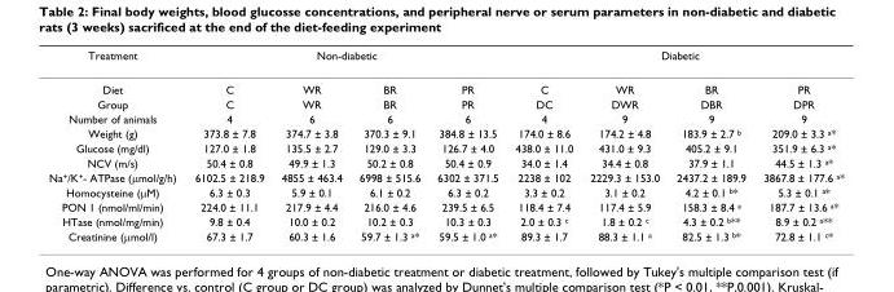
<table><thead><tr><td rowspan="2">Treatment Diet</td><td colspan="4">Non-diabetic</td><td colspan="4">Diabetic</td></tr><tr><td>C</td><td>WR</td><td>BR</td><td>PR</td><td>C</td><td>WR</td><td>BR</td><td>PR</td></tr></thead><tbody><tr><td>Group</td><td>C</td><td>WR</td><td>BR</td><td>PR</td><td>DC</td><td>DWR</td><td>DBR</td><td>DPR</td></tr><tr><td>Number of animals</td><td>4</td><td>6</td><td>6</td><td>6</td><td>4</td><td>9</td><td>9</td><td>9</td></tr><tr><td>Weight (g)</td><td>373.8 ± 7.8</td><td>374.7 ± 3.8</td><td>370.3 ± 9.1</td><td>384.8 ± 13.5</td><td>174.0 ± 8.6</td><td>174.2 ± 4.8</td><td>183.9 ± 2.7 <sup>b</sup></td><td>209.0 ± 3.3 <sup>a</sup>*</td></tr><tr><td>Glucose (mg/dl)</td><td>127.0 ± 1.8</td><td>135.5 ± 2.7</td><td>129.0 ± 3.3</td><td>126.7 ± 4.0</td><td>438.0 ± 11.0</td><td>431.0 ± 9.3</td><td>405.2 ± 9.1</td><td>351.9 ± 6.3 <sup>a</sup>*</td></tr><tr><td>NCV (m/s)</td><td>50.4 ± 0.8</td><td>49.9 ± 1.3</td><td>50.2 ± 0.8</td><td>50.4 ± 0.9</td><td>34.0 ± 1.4</td><td>34.4 ± 0.8</td><td>37.9 ± 1.1</td><td>44.5 ± 1.3 <sup>a</sup>*</td></tr><tr><td>Na<sup>+</sup>/K<sup>+</sup>- ATPase (µmol/g/h)</td><td>6102.5 ± 218.9</td><td>4855 ± 463.4</td><td>6998 ± 515.6</td><td>6302 ± 371.5</td><td>2238 ± 102</td><td>2229.3 ± 153.0</td><td>2437.2 ± 189.9</td><td>3867.8 ± 177.6 <sup>a</sup>*</td></tr><tr><td>Homocysteine (µM)</td><td>6.3 ± 0.3</td><td>5.9 ± 0.1</td><td>6.1 ± 0.2</td><td>6.3 ± 0.2</td><td>3.3 ± 0.2</td><td>3.1 ± 0.2</td><td>4.2 ± 0.1 <sup>b</sup>*</td><td>5.3 ± 0.1 <sup>a</sup>*</td></tr><tr><td>PON 1 (nmol/ml/min)</td><td>224.0 ± 11.1</td><td>217.9 ± 4.4</td><td>216.0 ± 4.6</td><td>239.5 ± 6.5</td><td>118.4 ± 7.4</td><td>117.4 ± 5.9</td><td>158.3 ± 8.4 <sup>a</sup></td><td>187.7 ± 13.6 <sup>a</sup>*</td></tr><tr><td>HTase (nmol/mg/min)</td><td>9.8 ± 0.4</td><td>10.0 ± 0.2</td><td>10.2 ± 0.3</td><td>10.3 ± 0.3</td><td>2.0 ± 0.3 <sup>c</sup></td><td>1.8 ± 0.2 <sup>c</sup></td><td>4.3 ± 0.2 <sup>b</sup>**</td><td>8.9 ± 0.2 <sup>a</sup>**</td></tr><tr><td>Creatinine (µmol/l)</td><td>67.3 ± 1.7</td><td>60.3 ± 1.6</td><td>59.7 ± 1.3 <sup>a</sup>*</td><td>59.5 ± 1.0 <sup>a</sup>*</td><td>89.3 ± 1.7</td><td>88.3 ± 1.1 <sup>a</sup></td><td>82.5 ± 1.3 <sup>b</sup>*</td><td>72.8 ± 1.1 <sup>c</sup>*</td></tr></tbody></table>